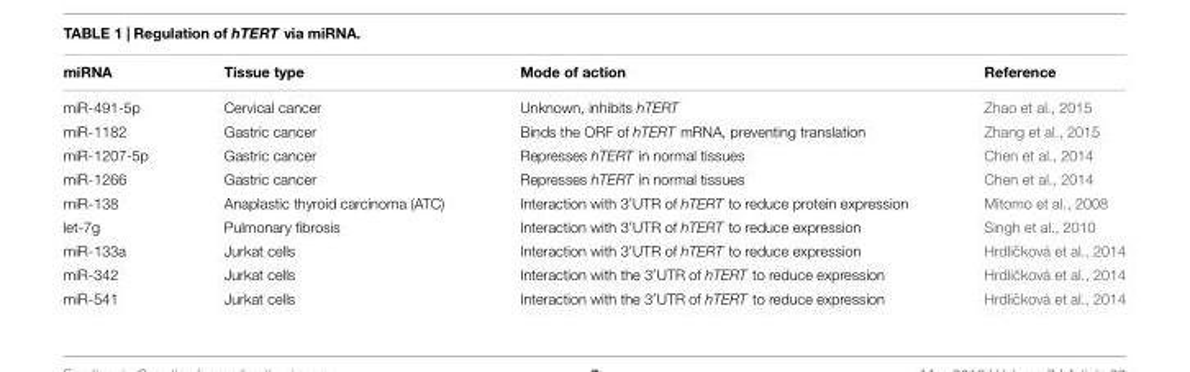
<table><thead><tr><td>miRNA</td><td>Tissue type</td><td>Mode of action</td><td>Reference</td></tr></thead><tbody><tr><td>miR-491-5p</td><td>Cervical cancer</td><td>Unknown, inhibits hTERT</td><td>Zhao et al., 2015</td></tr><tr><td>miR-1182</td><td>Gastric cancer</td><td>Binds the ORF of hTERT mRNA, preventing translation</td><td>Zhang et al., 2015</td></tr><tr><td>miR-1207-5p</td><td>Gastric cancer</td><td>Represses hTERT in normal tissues</td><td>Chen et al., 2014</td></tr><tr><td>miR-1266</td><td>Gastric cancer</td><td>Represses hTERT in normal tissues</td><td>Chen et al., 2014</td></tr><tr><td>miR-138</td><td>Anaplastic thyroid carcinoma (ATC)</td><td>Interaction with 3′UTR of hTERT to reduce protein expression</td><td>Mitomo et al., 2008</td></tr><tr><td>let-7g</td><td>Pulmonary fibrosis</td><td>Interaction with 3′UTR of hTERT to reduce expression</td><td>Singh et al., 2010</td></tr><tr><td>miR-133a</td><td>Jurkat cells</td><td>Interaction with 3′UTR of hTERT to reduce expression</td><td>Hrdli ˇcková et al., 2014</td></tr><tr><td>miR-342</td><td>Jurkat cells</td><td>Interaction with the 3′UTR of hTERT to reduce expression</td><td>Hrdli ˇcková et al., 2014</td></tr><tr><td>miR-541</td><td>Jurkat cells</td><td>Interaction with the 3′UTR of hTERT to reduce expression</td><td>Hrdli ˇcková et al., 2014</td></tr></tbody></table>